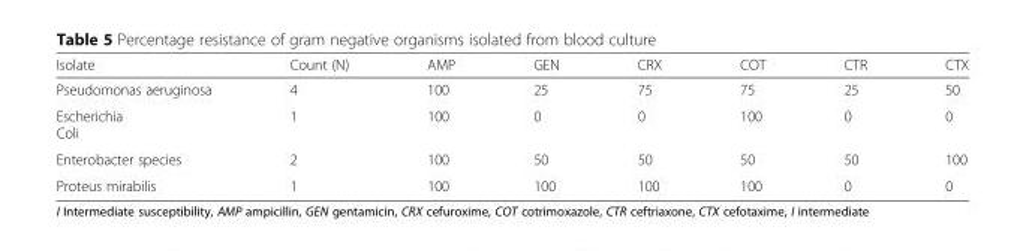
<table><thead><tr><td>Isolate</td><td>Count (N)</td><td>AMP</td><td>GEN</td><td>CRX</td><td>COT</td><td>CTR</td><td>CTX</td></tr></thead><tbody><tr><td>Pseudomonas aeruginosa</td><td>4</td><td>100</td><td>25</td><td>75</td><td>75</td><td>25</td><td>50</td></tr><tr><td>Escherichia Coli</td><td>1</td><td>100</td><td>0</td><td>0</td><td>100</td><td>0</td><td>0</td></tr><tr><td>Enterobacter species</td><td>2</td><td>100</td><td>50</td><td>50</td><td>50</td><td>50</td><td>100</td></tr><tr><td>Proteus mirabilis</td><td>1</td><td>100</td><td>100</td><td>100</td><td>100</td><td>0</td><td>0</td></tr></tbody></table>